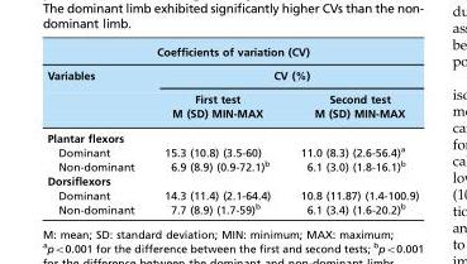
<table><thead><tr><td colspan="3">Coefficients of variation (CV)</td></tr><tr><td rowspan="2">Variables</td><td colspan="2">CV (%)</td></tr><tr><td>First test M (SD) MIN-MAX</td><td>Second test M (SD) MIN-MAX</td></tr></thead><tbody><tr><td colspan="3">Plantar flexors</td></tr><tr><td>Dominant</td><td>15.3 (10.8) (3.5-60)</td><td>11.0 (8.3) (2.6-56.4)<sup>a</sup></td></tr><tr><td>Non-dominant</td><td>6.9 (8.9) (0.9-72.1)<sup>b</sup></td><td>6.1 (3.0) (1.8-16.1)<sup>b</sup></td></tr><tr><td colspan="3">Dorsiflexors</td></tr><tr><td>Dominant</td><td>14.3 (11.4) (2.1-64.4)</td><td>10.8 (11.87) (1.4-100.9)</td></tr><tr><td>Non-dominant</td><td>7.7 (8.9) (1.7-59)<sup>b</sup></td><td>6.1 (3.4) (1.6-20.2)<sup>b</sup></td></tr></tbody></table>